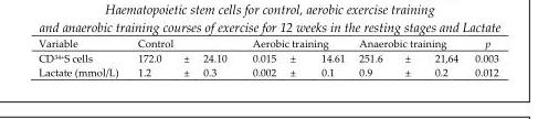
<table><thead><tr><td>Variable</td><td>Control</td><td>Aerobic training</td><td>Anaerobic training</td><td>p</td></tr></thead><tbody><tr><td>CD<sup>34+</sup>S cells</td><td>172.0 ± 24.10</td><td>0.015 ± 14.61</td><td>251.6 ± 21,64</td><td>0.003</td></tr><tr><td>Lactate (mmol/L)</td><td>1.2 ± 0.3</td><td>0.002 ± 0.1</td><td>0.9 ± 0.2</td><td>0.012</td></tr></tbody></table>